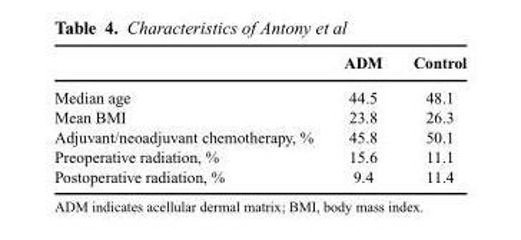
<table><thead><tr><td></td><td>ADM</td><td>Control</td></tr></thead><tbody><tr><td>Median age</td><td>44.5</td><td>48.1</td></tr><tr><td>Mean BMI</td><td>23.8</td><td>26.3</td></tr><tr><td>Adjuvant/neoadjuvant chemotherapy, %</td><td>45.8</td><td>50.1</td></tr><tr><td>Preoperative radiation, %</td><td>15.6</td><td>11.1</td></tr><tr><td>Postoperative radiation, %</td><td>9.4</td><td>11.4</td></tr></tbody></table>